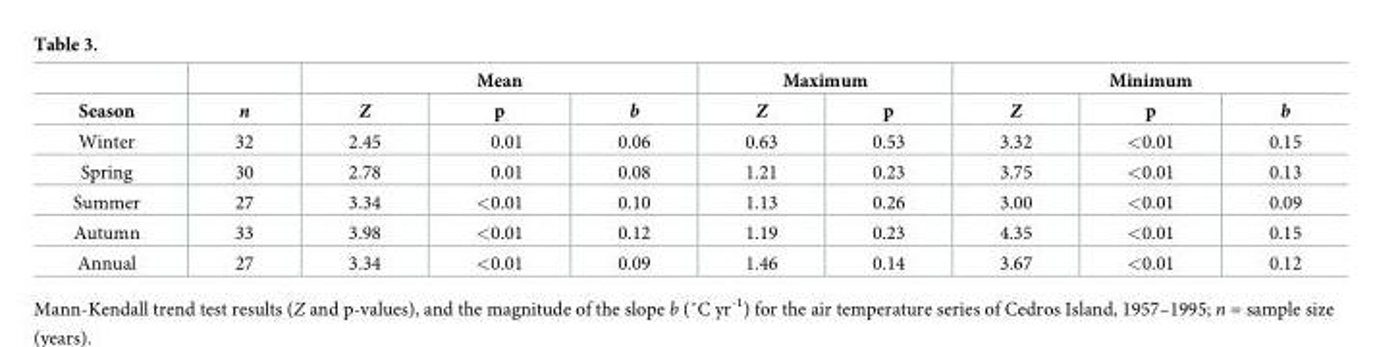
<table><thead><tr><td rowspan="2">Season</td><td rowspan="2">n</td><td colspan="3">Mean</td><td colspan="2">Maximum</td><td colspan="3">Minimum</td></tr><tr><td>Z</td><td>p</td><td>b</td><td>Z</td><td>p</td><td>Z</td><td>p</td><td>b</td></tr></thead><tbody><tr><td>Winter</td><td>32</td><td>2.45</td><td>0.01</td><td>0.06</td><td>0.63</td><td>0.53</td><td>3.32</td><td>&lt;0.01</td><td>0.15</td></tr><tr><td>Spring</td><td>30</td><td>2.78</td><td>0.01</td><td>0.08</td><td>1.21</td><td>0.23</td><td>3.75</td><td>&lt;0.01</td><td>0.13</td></tr><tr><td>Summer</td><td>27</td><td>3.34</td><td>&lt;0.01</td><td>0.10</td><td>1.13</td><td>0.26</td><td>3.00</td><td>&lt;0.01</td><td>0.09</td></tr><tr><td>Autumn</td><td>33</td><td>3.98</td><td>&lt;0.01</td><td>0.12</td><td>1.19</td><td>0.23</td><td>4.35</td><td>&lt;0.01</td><td>0.15</td></tr><tr><td>Annual</td><td>27</td><td>3.34</td><td>&lt;0.01</td><td>0.09</td><td>1.46</td><td>0.14</td><td>3.67</td><td>&lt;0.01</td><td>0.12</td></tr></tbody></table>